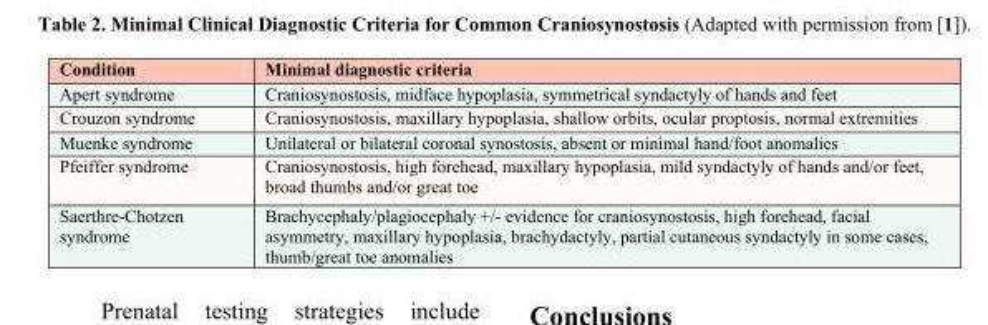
<table><thead><tr><td>Condition</td><td>Minimal diagnostic criteria</td></tr></thead><tbody><tr><td>Apert syndrome</td><td>Craniosynostosis, midface hypoplasia, symmetrical syndactyly of hands and feet</td></tr><tr><td>Crouzon syndrome</td><td>Craniosynostosis, maxillary hypoplasia, shallow orbits, ocular proptosis, normal extremities</td></tr><tr><td>Muenke syndrome</td><td>Unilateral or bilateral coronal synostosis, absent or minimal hand/foot anomalies</td></tr><tr><td>Pfeiffer syndrome</td><td>Craniosynostosis, high forehead, maxillary hypoplasia, mild syndactyly of hands and/or feet, broad thumbs and/or great toe</td></tr><tr><td>Saerthre-Chotzen syndrome</td><td>Brachycephaly/plagiocephaly +/- evidence for craniosynostosis, high forehead, facial asymmetry, maxillary hypoplasia, brachydactyly, partial cutaneous syndactyly in some cases, thumb/great toe anomalies</td></tr></tbody></table>